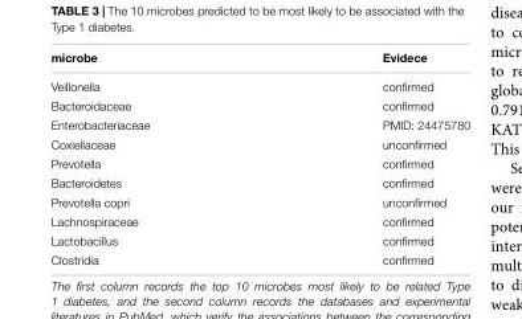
<table><thead><tr><td>microbe</td><td>Evidece</td></tr></thead><tbody><tr><td>Veillonella</td><td>confirmed</td></tr><tr><td>Bacteroidaceae</td><td>confirmed</td></tr><tr><td>Enterobacteriaceae</td><td>PMID: 24475780</td></tr><tr><td>Coxiellaceae</td><td>unconfirmed</td></tr><tr><td>Prevotella</td><td>confirmed</td></tr><tr><td>Bacteroidetes</td><td>confirmed</td></tr><tr><td>Prevotella copri</td><td>unconfirmed</td></tr><tr><td>Lachnospiraceae</td><td>confirmed</td></tr><tr><td>Lactobacillus</td><td>confirmed</td></tr><tr><td>Clostridia</td><td>confirmed</td></tr></tbody></table>